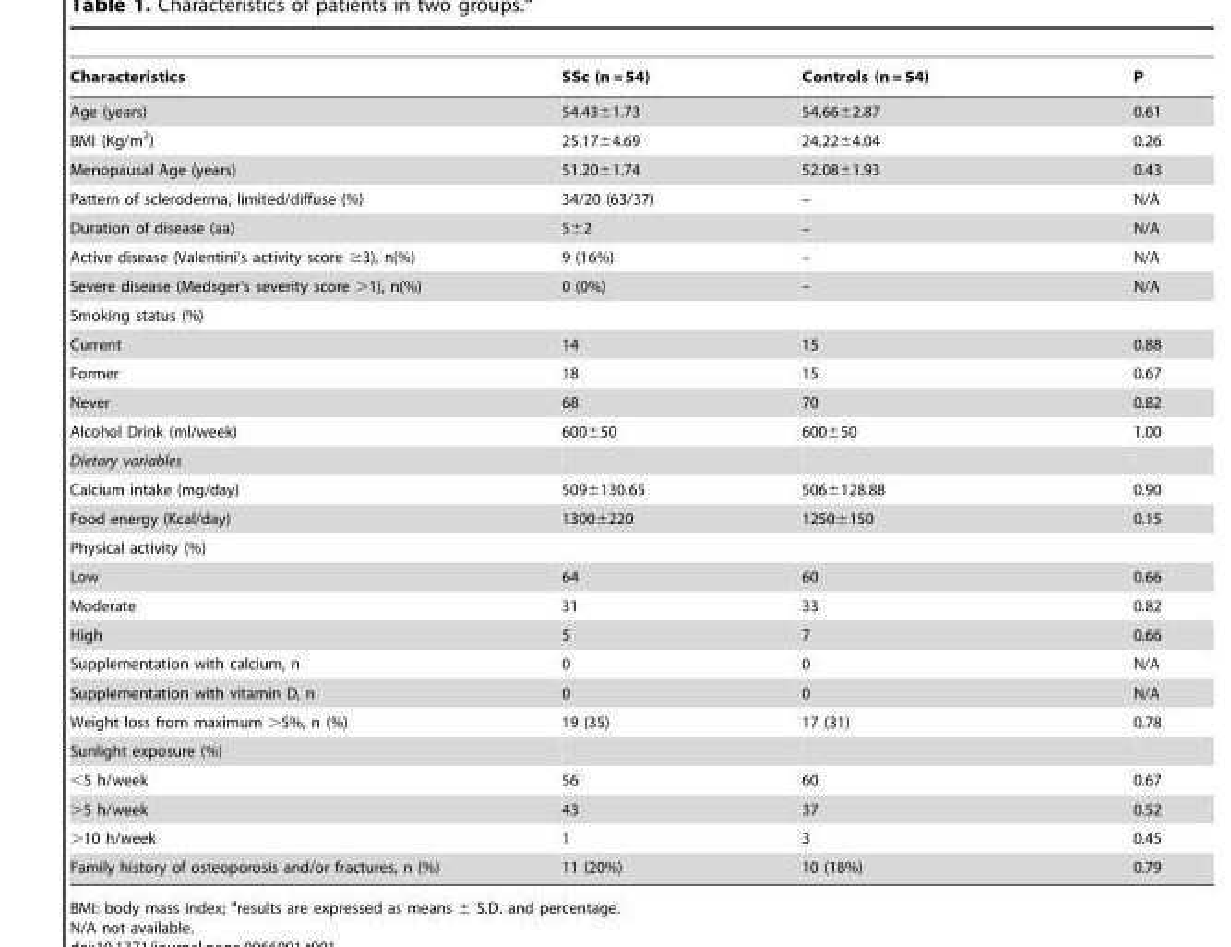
<table><thead><tr><td>Characteristics</td><td>SSc (n = 54)</td><td>Controls (n = 54)</td><td>P</td></tr></thead><tbody><tr><td>Age (years)</td><td>54.43±1.73</td><td>54.66±2.87</td><td>0.61</td></tr><tr><td>BMI (Kg/m<sup>2</sup>)</td><td>25.17±4.69</td><td>24.22±4.04</td><td>0.26</td></tr><tr><td>Menopausal Age (years)</td><td>51.20±1.74</td><td>52.08±1.93</td><td>0.43</td></tr><tr><td>Pattern of scleroderma, limited/diffuse (%)</td><td>34/20 (63/37)</td><td>–</td><td>N/A</td></tr><tr><td>Duration of disease (aa)</td><td>5±2</td><td>–</td><td>N/A</td></tr><tr><td>Active disease (Valentini’s activity score ≥3), n(%)</td><td>9 (16%)</td><td>–</td><td>N/A</td></tr><tr><td>Severe disease (Medsger’s severity score &gt;1), n(%)</td><td>0 (0%)</td><td>–</td><td>N/A</td></tr><tr><td colspan="4">Smoking status (%)</td></tr><tr><td>Current</td><td>14</td><td>15</td><td>0.88</td></tr><tr><td>Former</td><td>18</td><td>15</td><td>0.67</td></tr><tr><td>Never</td><td>68</td><td>70</td><td>0.82</td></tr><tr><td>Alcohol Drink (ml/week)</td><td>600±50</td><td>600±50</td><td>1.00</td></tr><tr><td colspan="4">Dietary variables</td></tr><tr><td>Calcium intake (mg/day)</td><td>509±130.65</td><td>506±128.88</td><td>0.90</td></tr><tr><td>Food energy (Kcal/day)</td><td>1300±220</td><td>1250±150</td><td>0.15</td></tr><tr><td colspan="4">Physical activity (%)</td></tr><tr><td>Low</td><td>64</td><td>60</td><td>0.66</td></tr><tr><td>Moderate</td><td>31</td><td>33</td><td>0.82</td></tr><tr><td>High</td><td>5</td><td>7</td><td>0.66</td></tr><tr><td>Supplementation with calcium, n</td><td>0</td><td>0</td><td>N/A</td></tr><tr><td>Supplementation with vitamin D, n</td><td>0</td><td>0</td><td>N/A</td></tr><tr><td>Weight loss from maximum &gt;5%, n (%)</td><td>19 (35)</td><td>17 (31)</td><td>0.78</td></tr><tr><td colspan="4">Sunlight exposure (%)</td></tr><tr><td>&lt;5 h/week</td><td>56</td><td>60</td><td>0.67</td></tr><tr><td>&gt;5 h/week</td><td>43</td><td>37</td><td>0.52</td></tr><tr><td>&gt;10 h/week</td><td>1</td><td>3</td><td>0.45</td></tr><tr><td>Family history of osteoporosis and/or fractures, n (%)</td><td>11 (20%)</td><td>10 (18%)</td><td>0.79</td></tr></tbody></table>